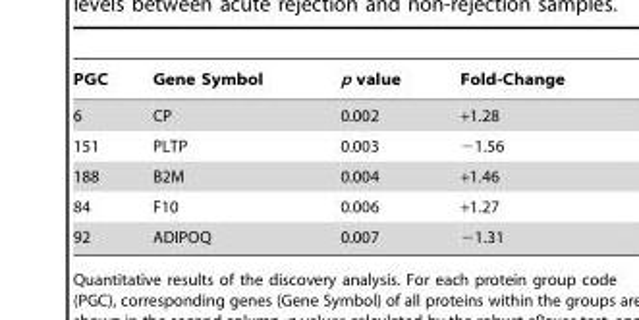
<table><thead><tr><td>PGC</td><td>Gene Symbol</td><td>p value</td><td>Fold-Change</td></tr></thead><tbody><tr><td>6</td><td>CP</td><td>0.002</td><td>+1.28</td></tr><tr><td>151</td><td>PLTP</td><td>0.003</td><td>−1.56</td></tr><tr><td>188</td><td>B2M</td><td>0.004</td><td>+1.46</td></tr><tr><td>84</td><td>F10</td><td>0.006</td><td>+1.27</td></tr><tr><td>92</td><td>ADIPOQ</td><td>0.007</td><td>−1.31</td></tr></tbody></table>